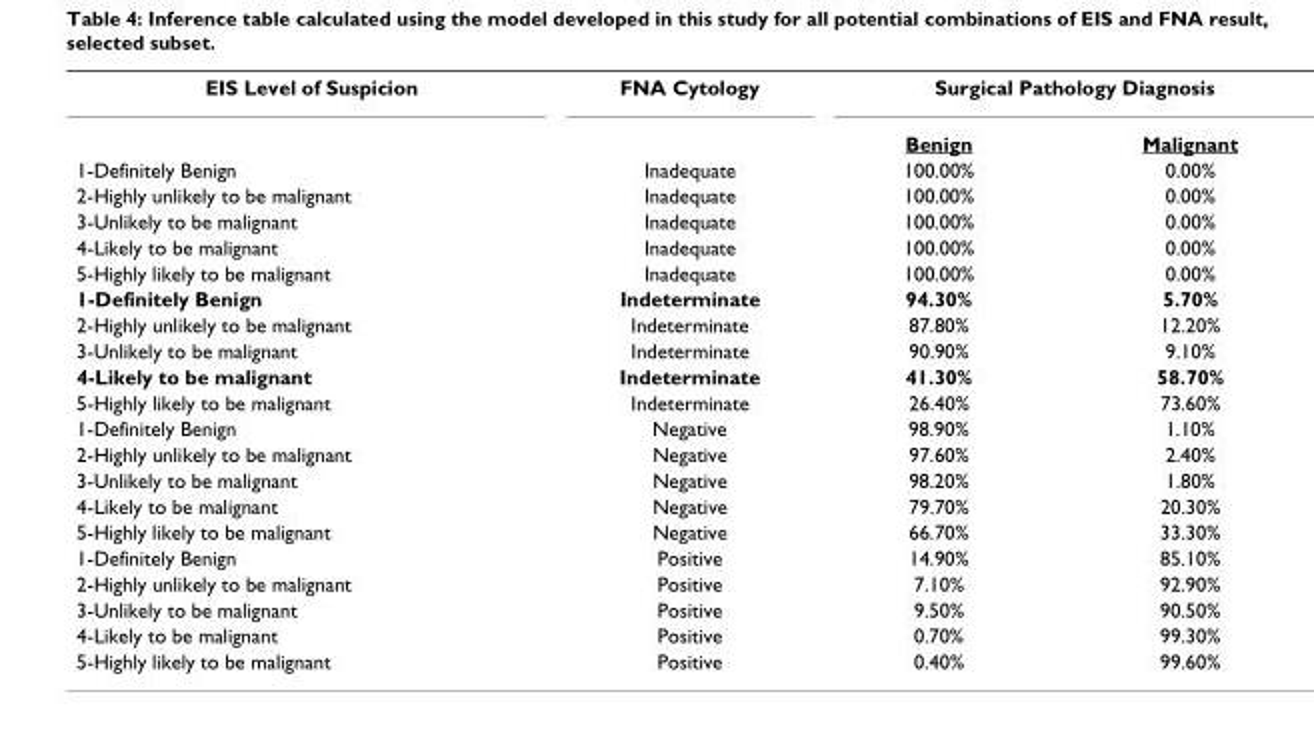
<table><tbody><tr><td rowspan="2">EIS Level of Suspicion</td><td>FNA Cytology</td><td colspan="2">Surgical Pathology Diagnosis</td></tr><tr><td></td><td>Benign</td><td>Malignant</td></tr><tr><td>1-Definitely Benign</td><td>Inadequate</td><td>100.00%</td><td>0.00%</td></tr><tr><td>2-Highly unlikely to be malignant</td><td>Inadequate</td><td>100.00%</td><td>0.00%</td></tr><tr><td>3-Unlikely to be malignant</td><td>Inadequate</td><td>100.00%</td><td>0.00%</td></tr><tr><td>4-Likely to be malignant</td><td>Inadequate</td><td>100.00%</td><td>0.00%</td></tr><tr><td>5-Highly likely to be malignant</td><td>Inadequate</td><td>100.00%</td><td>0.00%</td></tr><tr><td>1-Definitely Benign</td><td>Indeterminate</td><td>94.30%</td><td>5.70%</td></tr><tr><td>2-Highly unlikely to be malignant</td><td>Indeterminate</td><td>87.80%</td><td>12.20%</td></tr><tr><td>3-Unlikely to be malignant</td><td>Indeterminate</td><td>90.90%</td><td>9.10%</td></tr><tr><td>4-Likely to be malignant</td><td>Indeterminate</td><td>41.30%</td><td>58.70%</td></tr><tr><td>5-Highly likely to be malignant</td><td>Indeterminate</td><td>26.40%</td><td>73.60%</td></tr><tr><td>1-Definitely Benign</td><td>Negative</td><td>98.90%</td><td>1.10%</td></tr><tr><td>2-Highly unlikely to be malignant</td><td>Negative</td><td>97.60%</td><td>2.40%</td></tr><tr><td>3-Unlikely to be malignant</td><td>Negative</td><td>98.20%</td><td>1.80%</td></tr><tr><td>4-Likely to be malignant</td><td>Negative</td><td>79.70%</td><td>20.30%</td></tr><tr><td>5-Highly likely to be malignant</td><td>Negative</td><td>66.70%</td><td>33.30%</td></tr><tr><td>1-Definitely Benign</td><td>Positive</td><td>14.90%</td><td>85.10%</td></tr><tr><td>2-Highly unlikely to be malignant</td><td>Positive</td><td>7.10%</td><td>92.90%</td></tr><tr><td>3-Unlikely to be malignant</td><td>Positive</td><td>9.50%</td><td>90.50%</td></tr><tr><td>4-Likely to be malignant</td><td>Positive</td><td>0.70%</td><td>99.30%</td></tr><tr><td>5-Highly likely to be malignant</td><td>Positive</td><td>0.40%</td><td>99.60%</td></tr></tbody></table>